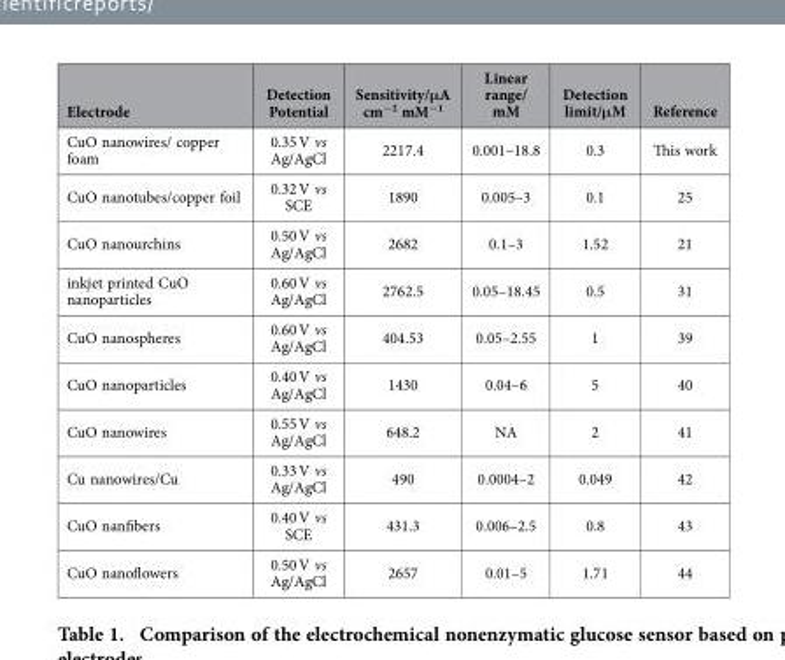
<table><thead><tr><td>Electrode</td><td>Detection Potential</td><td>Sensitivity/μA cm<sup>−2</sup> mM<sup>−1</sup></td><td>Linear range/ mM</td><td>Detection limit/μM</td><td>Reference</td></tr></thead><tbody><tr><td>CuO nanowires/ copper foam</td><td>0.35 V vs Ag/AgCl</td><td>2217.4</td><td>0.001–18.8</td><td>0.3</td><td>This work</td></tr><tr><td>CuO nanotubes/copper foil</td><td>0.32 V vs SCE</td><td>1890</td><td>0.005–3</td><td>0.1</td><td>25</td></tr><tr><td>CuO nanourchins</td><td>0.50 V vs Ag/AgCl</td><td>2682</td><td>0.1–3</td><td>1.52</td><td>21</td></tr><tr><td>inkjet printed CuO nanoparticles</td><td>0.60 V vs Ag/AgCl</td><td>2762.5</td><td>0.05–18.45</td><td>0.5</td><td>31</td></tr><tr><td>CuO nanospheres</td><td>0.60 V vs Ag/AgCl</td><td>404.53</td><td>0.05–2.55</td><td>1</td><td>39</td></tr><tr><td>CuO nanoparticles</td><td>0.40 V vs Ag/AgCl</td><td>1430</td><td>0.04–6</td><td>5</td><td>40</td></tr><tr><td>CuO nanowires</td><td>0.55 V vs Ag/AgCl</td><td>648.2</td><td>NA</td><td>2</td><td>41</td></tr><tr><td>Cu nanowires/Cu</td><td>0.33 V vs Ag/AgCl</td><td>490</td><td>0.0004–2</td><td>0.049</td><td>42</td></tr><tr><td>CuO nanfibers</td><td>0.40 V vs SCE</td><td>431.3</td><td>0.006–2.5</td><td>0.8</td><td>43</td></tr><tr><td>CuO nanoflowers</td><td>0.50 V vs Ag/AgCl</td><td>2657</td><td>0.01–5</td><td>1.71</td><td>44</td></tr></tbody></table>